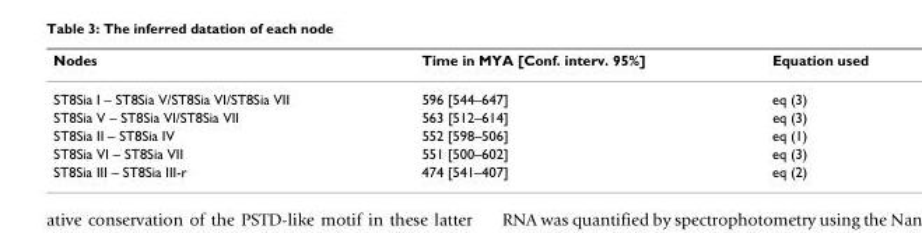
<table><thead><tr><td>Nodes</td><td>Time in MYA [Conf. interv. 95%]</td><td>Equation used</td></tr></thead><tbody><tr><td>ST8Sia I – ST8Sia V/ST8Sia VI/ST8Sia VII</td><td>596 [544–647]</td><td>eq (3)</td></tr><tr><td>ST8Sia V – ST8Sia VI/ST8Sia VII</td><td>563 [512–614]</td><td>eq (3)</td></tr><tr><td>ST8Sia II – ST8Sia IV</td><td>552 [598–506]</td><td>eq (1)</td></tr><tr><td>ST8Sia VI – ST8Sia VII</td><td>551 [500–602]</td><td>eq (3)</td></tr><tr><td>ST8Sia III – ST8Sia III-r</td><td>474 [541–407]</td><td>eq (2)</td></tr></tbody></table>